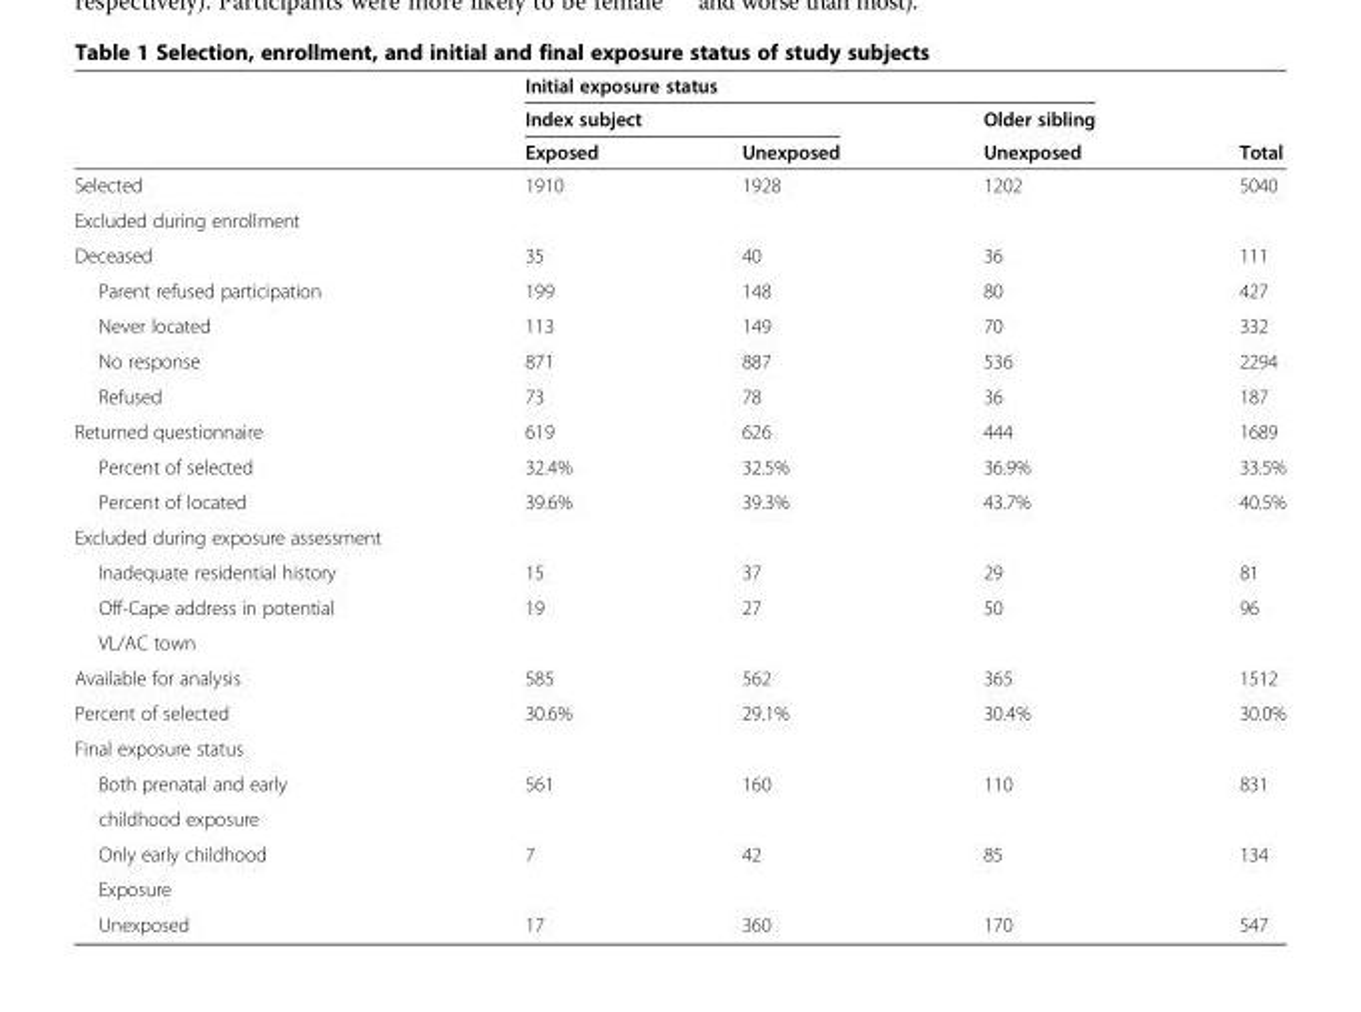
<table><thead><tr><td rowspan="3"></td><td colspan="3">Initial exposure status</td><td rowspan="3">Total</td></tr><tr><td colspan="2">Index subject</td><td rowspan="2">Older sibling Unexposed</td></tr><tr><td>Exposed</td><td>Unexposed</td></tr></thead><tbody><tr><td>Selected</td><td>1910</td><td>1928</td><td>1202</td><td>5040</td></tr><tr><td colspan="5">Excluded during enrollment</td></tr><tr><td>Deceased</td><td>35</td><td>40</td><td>36</td><td>111</td></tr><tr><td>Parent refused participation</td><td>199</td><td>148</td><td>80</td><td>427</td></tr><tr><td>Never located</td><td>113</td><td>149</td><td>70</td><td>332</td></tr><tr><td>No response</td><td>871</td><td>887</td><td>536</td><td>2294</td></tr><tr><td>Refused</td><td>73</td><td>78</td><td>36</td><td>187</td></tr><tr><td>Returned questionnaire</td><td>619</td><td>626</td><td>444</td><td>1689</td></tr><tr><td>Percent of selected</td><td>32.4%</td><td>32.5%</td><td>36.9%</td><td>33.5%</td></tr><tr><td>Percent of located</td><td>39.6%</td><td>39.3%</td><td>43.7%</td><td>40.5%</td></tr><tr><td colspan="5">Excluded during exposure assessment</td></tr><tr><td>Inadequate residential history</td><td>15</td><td>37</td><td>29</td><td>81</td></tr><tr><td>Off-Cape address in potential</td><td rowspan="2">19</td><td rowspan="2">27</td><td rowspan="2">50</td><td rowspan="2">96</td></tr><tr><td>VL/AC town</td></tr><tr><td>Available for analysis</td><td>585</td><td>562</td><td>365</td><td>1512</td></tr><tr><td>Percent of selected</td><td>30.6%</td><td>29.1%</td><td>30.4%</td><td>30.0%</td></tr><tr><td colspan="5">Final exposure status</td></tr><tr><td>Both prenatal and early</td><td rowspan="2">561</td><td rowspan="2">160</td><td rowspan="2">110</td><td rowspan="2">831</td></tr><tr><td>childhood exposure</td></tr><tr><td>Only early childhood</td><td rowspan="2">7</td><td rowspan="2">42</td><td rowspan="2">85</td><td rowspan="2">134</td></tr><tr><td>Exposure</td></tr><tr><td>Unexposed</td><td>17</td><td>360</td><td>170</td><td>547</td></tr></tbody></table>